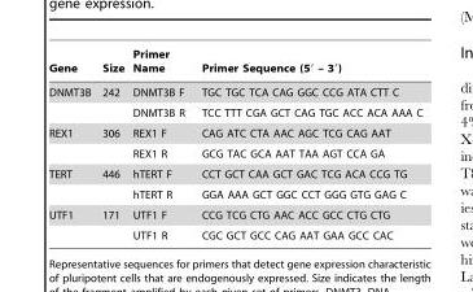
<table><thead><tr><td>Gene</td><td>Size</td><td>Primer Name</td><td>Primer Sequence (5′ – 3′)</td></tr></thead><tbody><tr><td rowspan="2">DNMT3B</td><td>242</td><td>DNMT3B F</td><td>TGC TGC TCA CAG GGC CCG ATA CTT C</td></tr><tr><td></td><td>DNMT3B R</td><td>TCC TTT CGA GCT CAG TGC ACC ACA AAA C</td></tr><tr><td rowspan="2">REX1</td><td>306</td><td>REX1 F</td><td>CAG ATC CTA AAC AGC TCG CAG AAT</td></tr><tr><td></td><td>REX1 R</td><td>GCG TAC GCA AAT TAA AGT CCA GA</td></tr><tr><td rowspan="2">TERT</td><td>446</td><td>hTERT F</td><td>CCT GCT CAA GCT GAC TCG ACA CCG TG</td></tr><tr><td></td><td>hTERT R</td><td>GGA AAA GCT GGC CCT GGG GTG GAG C</td></tr><tr><td rowspan="2">UTF1</td><td>171</td><td>UTF1 F</td><td>CCG TCG CTG AAC ACC GCC CTG CTG</td></tr><tr><td></td><td>UTF1 R</td><td>CGC GCT GCC CAG AAT GAA GCC CAC</td></tr></tbody></table>